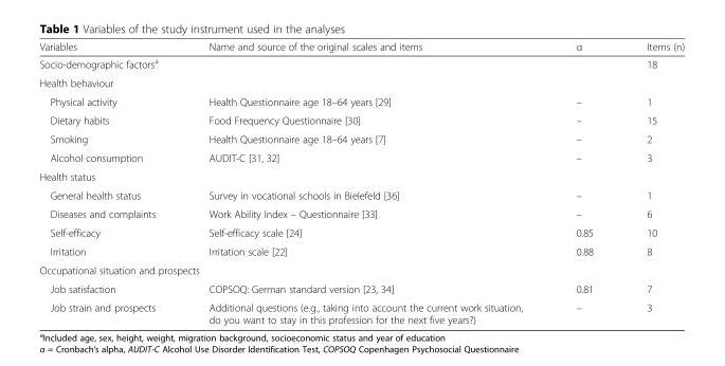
<table><thead><tr><td>Variables</td><td>Name and source of the original scales and items</td><td>α</td><td>Items (n)</td></tr></thead><tbody><tr><td colspan="2">Socio-demographic factors<sup>a</sup></td><td></td><td>18</td></tr><tr><td colspan="4">Health behaviour</td></tr><tr><td>Physical activity</td><td>Health Questionnaire age 18–64 years [29]</td><td>–</td><td>1</td></tr><tr><td>Dietary habits</td><td>Food Frequency Questionnaire [30]</td><td>–</td><td>15</td></tr><tr><td>Smoking</td><td>Health Questionnaire age 18–64 years [7]</td><td>–</td><td>2</td></tr><tr><td>Alcohol consumption</td><td>AUDIT-C [31, 32]</td><td>–</td><td>3</td></tr><tr><td colspan="4">Health status</td></tr><tr><td>General health status</td><td>Survey in vocational schools in Bielefeld [36]</td><td>–</td><td>1</td></tr><tr><td>Diseases and complaints</td><td>Work Ability Index – Questionnaire [33]</td><td>–</td><td>6</td></tr><tr><td>Self-efficacy</td><td>Self-efficacy scale [24]</td><td>0.85</td><td>10</td></tr><tr><td>Irritation</td><td>Irritation scale [22]</td><td>0.88</td><td>8</td></tr><tr><td colspan="4">Occupational situation and prospects</td></tr><tr><td>Job satisfaction</td><td>COPSOQ: German standard version [23, 34]</td><td>0.81</td><td>7</td></tr><tr><td>Job strain and prospects</td><td>Additional questions (e.g., taking into account the current work situation, do you want to stay in this profession for the next five years?)</td><td>–</td><td>3</td></tr></tbody></table>